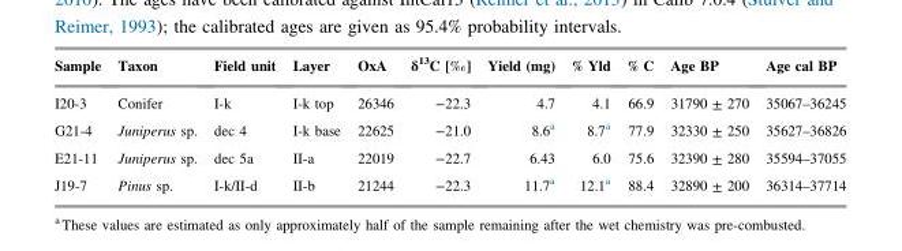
<table><thead><tr><td>Sample</td><td>Taxon</td><td>Field unit</td><td>Layer</td><td>OxA</td><td>δ<sup>13</sup>C [‰]</td><td>Yield (mg)</td><td>% Yld</td><td>% C</td><td>Age BP</td><td>Age cal BP</td></tr></thead><tbody><tr><td>I20-3</td><td>Conifer</td><td>I-k</td><td>I-k top</td><td>26346</td><td>−22.3</td><td>4.7</td><td>4.1</td><td>66.9</td><td>31790 ± 270</td><td>35067–36245</td></tr><tr><td>G21-4</td><td>Juniperus sp.</td><td>dec 4</td><td>I-k base</td><td>22625</td><td>−21.0</td><td>8.6<sup>a</sup></td><td>8.7<sup>a</sup></td><td>77.9</td><td>32330 ± 250</td><td>35627–36826</td></tr><tr><td>E21-11</td><td>Juniperus sp.</td><td>dec 5a</td><td>II-a</td><td>22019</td><td>−22.7</td><td>6.43</td><td>6.0</td><td>75.6</td><td>32390 ± 280</td><td>35594–37055</td></tr><tr><td>J19-7</td><td>Pinus sp.</td><td>I-k/II-d</td><td>II-b</td><td>21244</td><td>−22.3</td><td>11.7<sup>a</sup></td><td>12.1<sup>a</sup></td><td>88.4</td><td>32890 ± 200</td><td>36314–37714</td></tr></tbody></table>